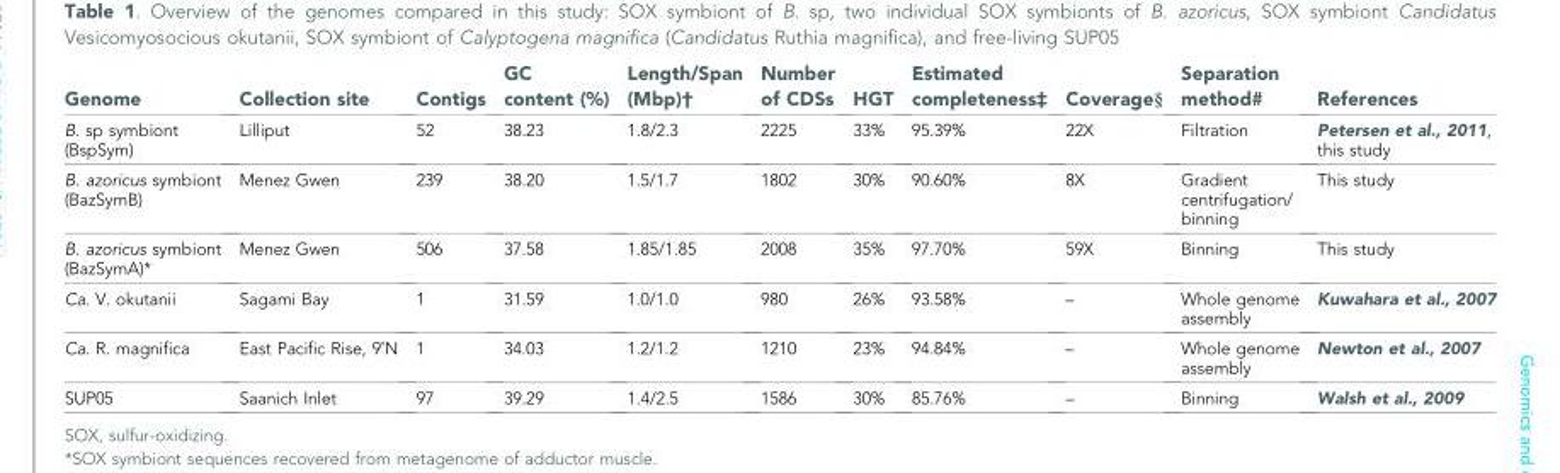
<table><thead><tr><td>Genome</td><td>Collection site</td><td>Contigs</td><td>GC content (%)</td><td>Length/Span (Mbp)†</td><td>Number of CDSs</td><td>HGT</td><td>Estimated completeness‡</td><td>Coverage§</td><td>Separation method#</td><td>References</td></tr></thead><tbody><tr><td>B. sp symbiont (BspSym)</td><td>Lilliput</td><td>52</td><td>38.23</td><td>1.8/2.3</td><td>2225</td><td>33%</td><td>95.39%</td><td>22X</td><td>Filtration</td><td>Petersen et al., 2011, this study</td></tr><tr><td>B. azoricus symbiont (BazSymB)</td><td>Menez Gwen</td><td>239</td><td>38.20</td><td>1.5/1.7</td><td>1802</td><td>30%</td><td>90.60%</td><td>8X</td><td>Gradient centrifugation/ binning</td><td>This study</td></tr><tr><td>B. azoricus symbiont (BazSymA)*</td><td>Menez Gwen</td><td>506</td><td>37.58</td><td>1.85/1.85</td><td>2008</td><td>35%</td><td>97.70%</td><td>59X</td><td>Binning</td><td>This study</td></tr><tr><td>Ca. V. okutanii</td><td>Sagami Bay</td><td>1</td><td>31.59</td><td>1.0/1.0</td><td>980</td><td>26%</td><td>93.58%</td><td>–</td><td>Whole genome assembly</td><td>Kuwahara et al., 2007</td></tr><tr><td>Ca. R. magnifica</td><td>East Pacific Rise, 9˚N</td><td>1</td><td>34.03</td><td>1.2/1.2</td><td>1210</td><td>23%</td><td>94.84%</td><td>–</td><td>Whole genome assembly</td><td>Newton et al., 2007</td></tr><tr><td>SUP05</td><td>Saanich Inlet</td><td>97</td><td>39.29</td><td>1.4/2.5</td><td>1586</td><td>30%</td><td>85.76%</td><td>–</td><td>Binning</td><td>Walsh et al., 2009</td></tr></tbody></table>